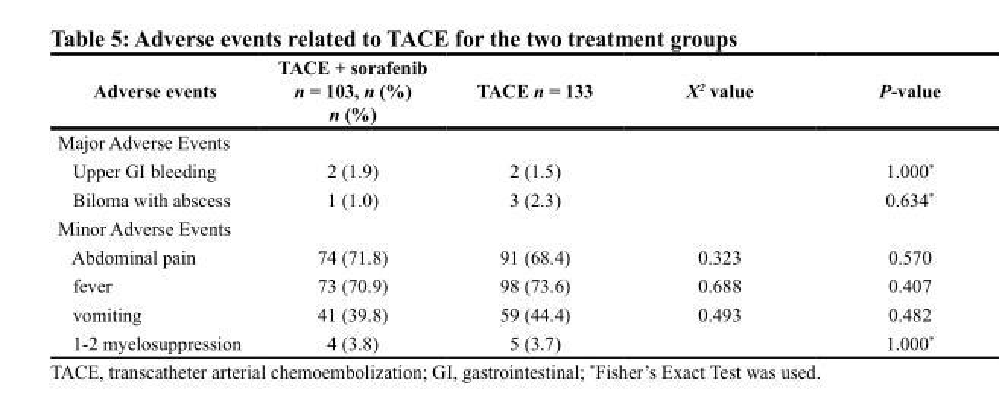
<table><thead><tr><td>Adverse events</td><td>TACE + sorafenib n = 103, n (%) n (%)</td><td>TACE n = 133</td><td>X<sup>2</sup> value</td><td>P-value</td></tr></thead><tbody><tr><td colspan="5">Major Adverse Events</td></tr><tr><td>Upper GI bleeding</td><td>2 (1.9)</td><td>2 (1.5)</td><td></td><td>1.000*</td></tr><tr><td>Biloma with abscess</td><td>1 (1.0)</td><td>3 (2.3)</td><td></td><td>0.634*</td></tr><tr><td colspan="5">Minor Adverse Events</td></tr><tr><td>Abdominal pain</td><td>74 (71.8)</td><td>91 (68.4)</td><td>0.323</td><td>0.570</td></tr><tr><td>fever</td><td>73 (70.9)</td><td>98 (73.6)</td><td>0.688</td><td>0.407</td></tr><tr><td>vomiting</td><td>41 (39.8)</td><td>59 (44.4)</td><td>0.493</td><td>0.482</td></tr><tr><td>1-2 myelosuppression</td><td>4 (3.8)</td><td>5 (3.7)</td><td></td><td>1.000*</td></tr></tbody></table>